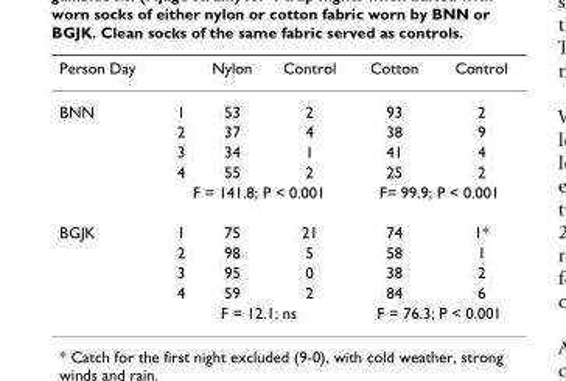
<table><thead><tr><td>Person Day</td><td></td><td>Nylon</td><td>Control</td><td>Cotton</td><td>Control</td></tr></thead><tbody><tr><td rowspan="5">BNN</td><td>1</td><td>53</td><td>2</td><td>93</td><td>2</td></tr><tr><td>2</td><td>37</td><td>4</td><td>38</td><td>9</td></tr><tr><td>3</td><td>34</td><td>1</td><td>41</td><td>4</td></tr><tr><td>4</td><td>55</td><td>2</td><td>25</td><td>2</td></tr><tr><td colspan="3">F = 141.8; P &lt; 0.001</td><td colspan="2">F= 99.9; P &lt; 0.001</td></tr><tr><td rowspan="5">BGJK</td><td>1</td><td>75</td><td>21</td><td>74</td><td>1*</td></tr><tr><td>2</td><td>98</td><td>5</td><td>58</td><td>1</td></tr><tr><td>3</td><td>95</td><td>0</td><td>38</td><td>2</td></tr><tr><td>4</td><td>59</td><td>2</td><td>84</td><td>6</td></tr><tr><td colspan="3">F = 12.1; ns</td><td colspan="2">F = 76.3; P &lt; 0.001</td></tr></tbody></table>